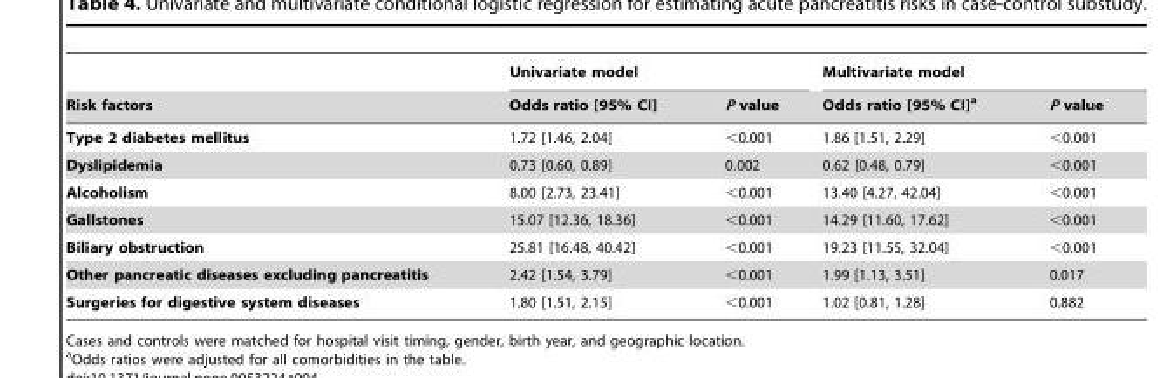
<table><thead><tr><td rowspan="2">Risk factors</td><td colspan="2">Univariate model</td><td colspan="2">Multivariate model</td></tr><tr><td>Odds ratio [95% CI]</td><td>P value</td><td>Odds ratio [95% CI]<sup>a</sup></td><td>P value</td></tr></thead><tbody><tr><td>Type 2 diabetes mellitus</td><td>1.72 [1.46, 2.04]</td><td>&lt;0.001</td><td>1.86 [1.51, 2.29]</td><td>&lt;0.001</td></tr><tr><td>Dyslipidemia</td><td>0.73 [0.60, 0.89]</td><td>0.002</td><td>0.62 [0.48, 0.79]</td><td>&lt;0.001</td></tr><tr><td>Alcoholism</td><td>8.00 [2.73, 23.41]</td><td>&lt;0.001</td><td>13.40 [4.27, 42.04]</td><td>&lt;0.001</td></tr><tr><td>Gallstones</td><td>15.07 [12.36, 18.36]</td><td>&lt;0.001</td><td>14.29 [11.60, 17.62]</td><td>&lt;0.001</td></tr><tr><td>Biliary obstruction</td><td>25.81 [16.48, 40.42]</td><td>&lt;0.001</td><td>19.23 [11.55, 32.04]</td><td>&lt;0.001</td></tr><tr><td>Other pancreatic diseases excluding pancreatitis</td><td>2.42 [1.54, 3.79]</td><td>&lt;0.001</td><td>1.99 [1.13, 3.51]</td><td>0.017</td></tr><tr><td>Surgeries for digestive system diseases</td><td>1.80 [1.51, 2.15]</td><td>&lt;0.001</td><td>1.02 [0.81, 1.28]</td><td>0.882</td></tr></tbody></table>